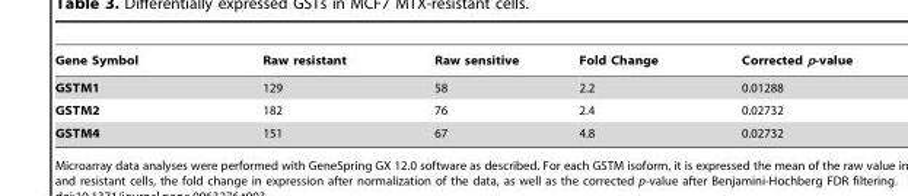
<table><thead><tr><td>Gene Symbol</td><td>Raw resistant</td><td>Raw sensitive</td><td>Fold Change</td><td>Corrected p-value</td></tr></thead><tbody><tr><td>GSTM1</td><td>129</td><td>58</td><td>2.2</td><td>0.01288</td></tr><tr><td>GSTM2</td><td>182</td><td>76</td><td>2.4</td><td>0.02732</td></tr><tr><td>GSTM4</td><td>151</td><td>67</td><td>4.8</td><td>0.02732</td></tr></tbody></table>